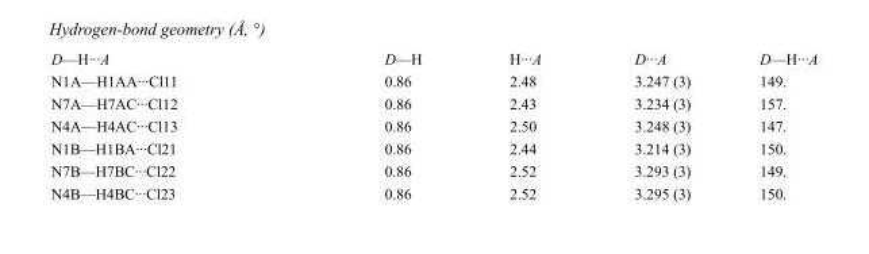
<table><tbody><tr><td>D—H···A</td><td>D—H</td><td>H···A</td><td>D···A</td><td>D—H···A</td></tr><tr><td>N1A—H1AA···Cl11</td><td>0.86</td><td>2.48</td><td>3.247 (3)</td><td>149.</td></tr><tr><td>N7A—H7AC···Cl12</td><td>0.86</td><td>2.43</td><td>3.234 (3)</td><td>157.</td></tr><tr><td>N4A—H4AC···Cl13</td><td>0.86</td><td>2.50</td><td>3.248 (3)</td><td>147.</td></tr><tr><td>N1B—H1BA···Cl21</td><td>0.86</td><td>2.44</td><td>3.214 (3)</td><td>150.</td></tr><tr><td>N7B—H7BC···Cl22</td><td>0.86</td><td>2.52</td><td>3.293 (3)</td><td>149.</td></tr><tr><td>N4B—H4BC···Cl23</td><td>0.86</td><td>2.52</td><td>3.295 (3)</td><td>150.</td></tr></tbody></table>